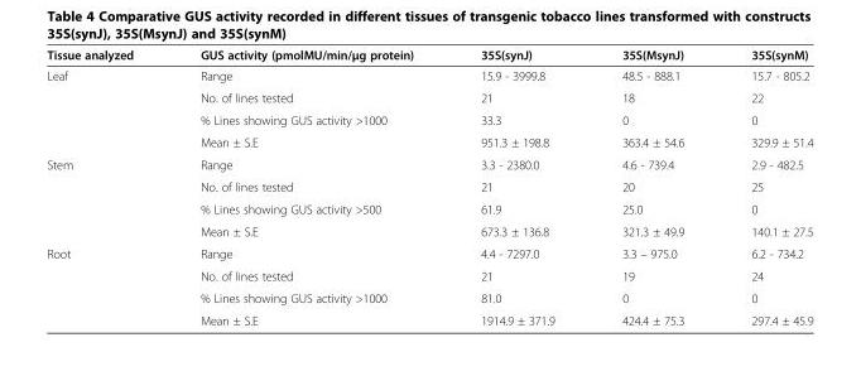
<table><thead><tr><td>Tissue analyzed</td><td>GUS activity (pmolMU/min/μg protein)</td><td>35S(synJ)</td><td>35S(MsynJ)</td><td>35S(synM)</td></tr></thead><tbody><tr><td rowspan="4">Leaf</td><td>Range</td><td>15.9 - 3999.8</td><td>48.5 - 888.1</td><td>15.7 - 805.2</td></tr><tr><td>No. of lines tested</td><td>21</td><td>18</td><td>22</td></tr><tr><td>% Lines showing GUS activity &gt;1000</td><td>33.3</td><td>0</td><td>0</td></tr><tr><td>Mean ± S.E</td><td>951.3 ± 198.8</td><td>363.4 ± 54.6</td><td>329.9 ± 51.4</td></tr><tr><td rowspan="4">Stem</td><td>Range</td><td>3.3 - 2380.0</td><td>4.6 - 739.4</td><td>2.9 - 482.5</td></tr><tr><td>No. of lines tested</td><td>21</td><td>20</td><td>25</td></tr><tr><td>% Lines showing GUS activity &gt;500</td><td>61.9</td><td>25.0</td><td>0</td></tr><tr><td>Mean ± S.E</td><td>673.3 ± 136.8</td><td>321.3 ± 49.9</td><td>140.1 ± 27.5</td></tr><tr><td rowspan="4">Root</td><td>Range</td><td>4.4 - 7297.0</td><td>3.3 – 975.0</td><td>6.2 - 734.2</td></tr><tr><td>No. of lines tested</td><td>21</td><td>19</td><td>24</td></tr><tr><td>% Lines showing GUS activity &gt;1000</td><td>81.0</td><td>0</td><td>0</td></tr><tr><td>Mean ± S.E</td><td>1914.9 ± 371.9</td><td>424.4 ± 75.3</td><td>297.4 ± 45.9</td></tr></tbody></table>